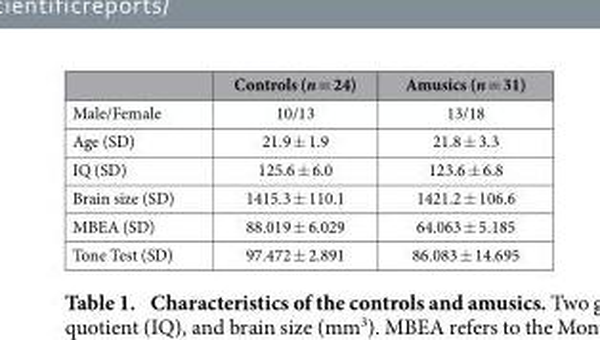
<table><thead><tr><td></td><td>Controls (n = 24)</td><td>Amusics (n = 31)</td></tr></thead><tbody><tr><td>Male/Female</td><td>10/13</td><td>13/18</td></tr><tr><td>Age (SD)</td><td>21.9 ± 1.9</td><td>21.8 ± 3.3</td></tr><tr><td>IQ (SD)</td><td>125.6 ± 6.0</td><td>123.6 ± 6.8</td></tr><tr><td>Brain size (SD)</td><td>1415.3 ± 110.1</td><td>1421.2 ± 106.6</td></tr><tr><td>MBEA (SD)</td><td>88.019 ± 6.029</td><td>64.063 ± 5.185</td></tr><tr><td>Tone Test (SD)</td><td>97.472 ± 2.891</td><td>86.083 ± 14.695</td></tr></tbody></table>